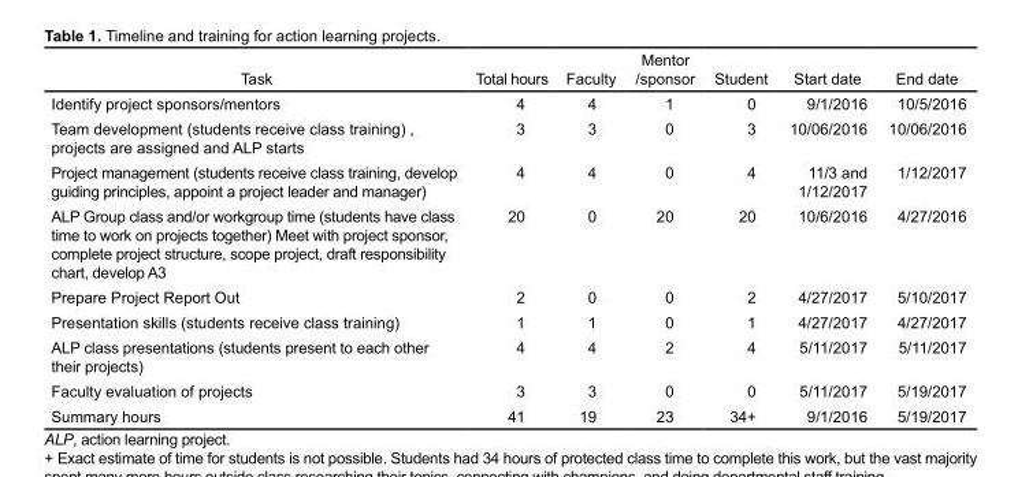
<table><thead><tr><td>Task</td><td>Total hours</td><td>Faculty</td><td>Mentor /sponsor</td><td>Student</td><td>Start date</td><td>End date</td></tr></thead><tbody><tr><td>Identify project sponsors/mentors</td><td>4</td><td>4</td><td>1</td><td>0</td><td>9/1/2016</td><td>10/5/2016</td></tr><tr><td>Team development (students receive class training) , projects are assigned and ALP starts</td><td>3</td><td>3</td><td>0</td><td>3</td><td>10/06/2016</td><td>10/06/2016</td></tr><tr><td>Project management (students receive class training, develop guiding principles, appoint a project leader and manager)</td><td>4</td><td>4</td><td>0</td><td>4</td><td>11/3 and 1/12/2017</td><td>1/12/2017</td></tr><tr><td>ALP Group class and/or workgroup time (students have class time to work on projects together) Meet with project sponsor, complete project structure, scope project, draft responsibility chart, develop A3</td><td>20</td><td>0</td><td>20</td><td>20</td><td>10/6/2016</td><td>4/27/2016</td></tr><tr><td>Prepare Project Report Out</td><td>2</td><td>0</td><td>0</td><td>2</td><td>4/27/2017</td><td>5/10/2017</td></tr><tr><td>Presentation skills (students receive class training)</td><td>1</td><td>1</td><td>0</td><td>1</td><td>4/27/2017</td><td>4/27/2017</td></tr><tr><td>ALP class presentations (students present to each other their projects)</td><td>4</td><td>4</td><td>2</td><td>4</td><td>5/11/2017</td><td>5/11/2017</td></tr><tr><td>Faculty evaluation of projects</td><td>3</td><td>3</td><td>0</td><td>0</td><td>5/11/2017</td><td>5/19/2017</td></tr><tr><td>Summary hours</td><td>41</td><td>19</td><td>23</td><td>34+</td><td>9/1/2016</td><td>5/19/2017</td></tr></tbody></table>